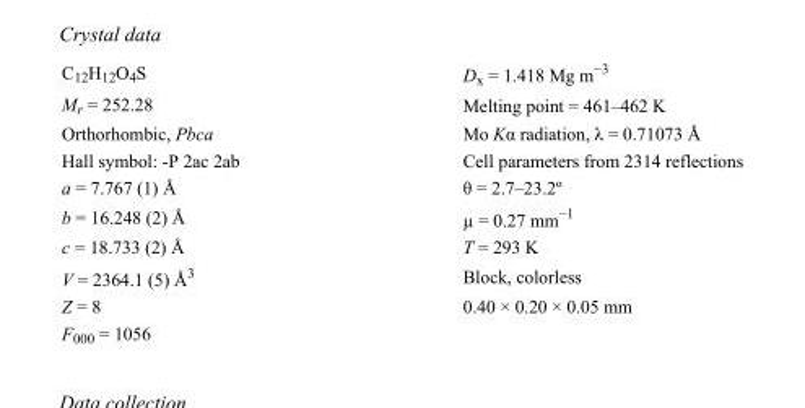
<table><tbody><tr><td>C<sub>12</sub>H<sub>12</sub>O<sub>4</sub>S</td><td>D<sub>x</sub> = 1.418 Mg m<sup>−3</sup></td></tr><tr><td>M<sub>r</sub> = 252.28</td><td>Melting point = 461–462 K</td></tr><tr><td>Orthorhombic, Pbca</td><td>Mo Kα radiation, λ = 0.71073 Å</td></tr><tr><td>Hall symbol: -P 2ac 2ab</td><td>Cell parameters from 2314 reflections</td></tr><tr><td>a = 7.767 (1) Å</td><td>θ = 2.7–23.2º</td></tr><tr><td>b = 16.248 (2) Å</td><td>µ = 0.27 mm<sup>−1</sup></td></tr><tr><td>c = 18.733 (2) Å</td><td>T = 293 K</td></tr><tr><td>V = 2364.1 (5) Å<sup>3</sup></td><td>Block, colorless</td></tr><tr><td>Z = 8</td><td>0.40 × 0.20 × 0.05 mm</td></tr><tr><td>F000 = 1056</td><td></td></tr></tbody></table>